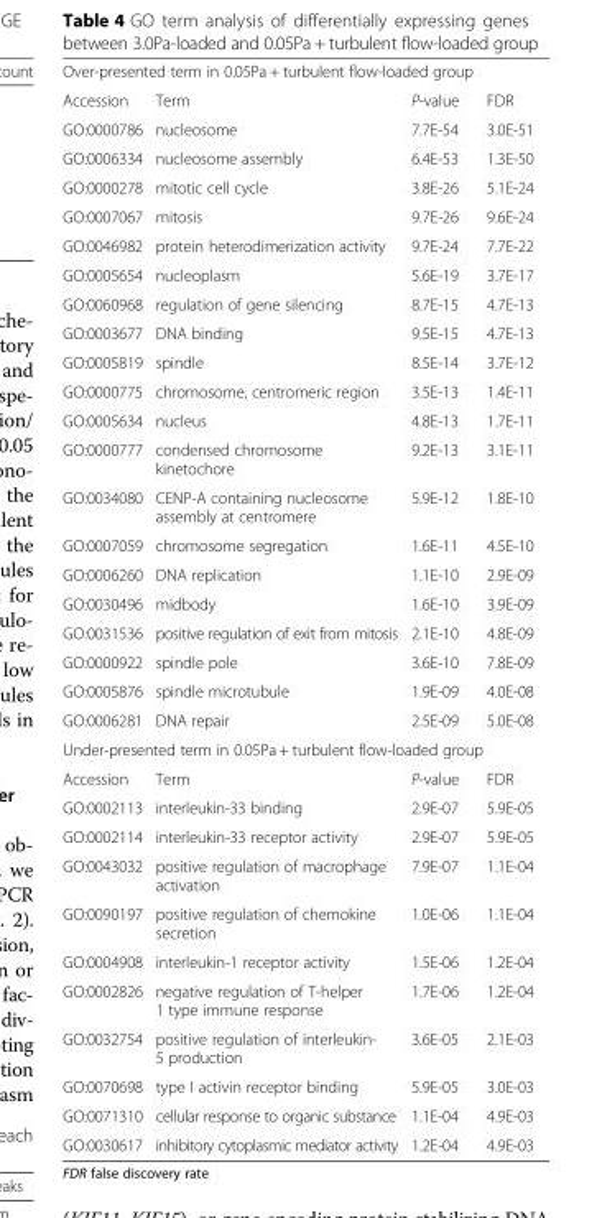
<table><tbody><tr><td colspan="4">Over-presented term in 0.05Pa + turbulent flow-loaded group</td></tr><tr><td>Accession</td><td>Term</td><td>P-value</td><td>FDR</td></tr><tr><td>GO:0000786</td><td>nucleosome</td><td>7.7E-54</td><td>3.0E-51</td></tr><tr><td>GO:0006334</td><td>nucleosome assembly</td><td>6.4E-53</td><td>1.3E-50</td></tr><tr><td>GO:0000278</td><td>mitotic cell cycle</td><td>3.8E-26</td><td>5.1E-24</td></tr><tr><td>GO:0007067</td><td>mitosis</td><td>9.7E-26</td><td>9.6E-24</td></tr><tr><td>GO:0046982</td><td>protein heterodimerization activity</td><td>9.7E-24</td><td>7.7E-22</td></tr><tr><td>GO:0005654</td><td>nucleoplasm</td><td>5.6E-19</td><td>3.7E-17</td></tr><tr><td>GO:0060968</td><td>regulation of gene silencing</td><td>8.7E-15</td><td>4.7E-13</td></tr><tr><td>GO:0003677</td><td>DNA binding</td><td>9.5E-15</td><td>4.7E-13</td></tr><tr><td>GO:0005819</td><td>spindle</td><td>8.5E-14</td><td>3.7E-12</td></tr><tr><td>GO:0000775</td><td>chromosome, centromeric region</td><td>3.5E-13</td><td>1.4E-11</td></tr><tr><td>GO:0005634</td><td>nucleus</td><td>4.8E-13</td><td>1.7E-11</td></tr><tr><td>GO:0000777</td><td>condensed chromosome kinetochore</td><td>9.2E-13</td><td>3.1E-11</td></tr><tr><td>GO:0034080</td><td>CENP-A containing nucleosome assembly at centromere</td><td>5.9E-12</td><td>1.8E-10</td></tr><tr><td>GO:0007059</td><td>chromosome segregation</td><td>1.6E-11</td><td>4.5E-10</td></tr><tr><td>GO:0006260</td><td>DNA replication</td><td>1.1E-10</td><td>2.9E-09</td></tr><tr><td>GO:0030496</td><td>midbody</td><td>1.6E-10</td><td>3.9E-09</td></tr><tr><td>GO:0031536</td><td>positive regulation of exit from mitosis</td><td>2.1E-10</td><td>4.8E-09</td></tr><tr><td>GO:0000922</td><td>spindle pole</td><td>3.6E-10</td><td>7.8E-09</td></tr><tr><td>GO:0005876</td><td>spindle microtubule</td><td>1.9E-09</td><td>4.0E-08</td></tr><tr><td>GO:0006281</td><td>DNA repair</td><td>2.5E-09</td><td>5.0E-08</td></tr><tr><td colspan="4">Under-presented term in 0.05Pa + turbulent flow-loaded group</td></tr><tr><td>Accession</td><td>Term</td><td>P-value</td><td>FDR</td></tr><tr><td>GO:0002113</td><td>interleukin-33 binding</td><td>2.9E-07</td><td>5.9E-05</td></tr><tr><td>GO:0002114</td><td>interleukin-33 receptor activity</td><td>2.9E-07</td><td>5.9E-05</td></tr><tr><td>GO:0043032</td><td>positive regulation of macrophage activation</td><td>7.9E-07</td><td>1.1E-04</td></tr><tr><td>GO:0090197</td><td>positive regulation of chemokine secretion</td><td>1.0E-06</td><td>1.1E-04</td></tr><tr><td>GO:0004908</td><td>interleukin-1 receptor activity</td><td>1.5E-06</td><td>1.2E-04</td></tr><tr><td>GO:0002826</td><td>negative regulation of T-helper 1 type immune response</td><td>1.7E-06</td><td>1.2E-04</td></tr><tr><td>GO:0032754</td><td>positive regulation of interleukin- 5 production</td><td>3.6E-05</td><td>2.1E-03</td></tr><tr><td>GO:0070698</td><td>type I activin receptor binding</td><td>5.9E-05</td><td>3.0E-03</td></tr><tr><td>GO:0071310</td><td>cellular response to organic substance</td><td>1.1E-04</td><td>4.9E-03</td></tr><tr><td>GO:0030617</td><td>inhibitory cytoplasmic mediator activity</td><td>1.2E-04</td><td>4.9E-03</td></tr></tbody></table>